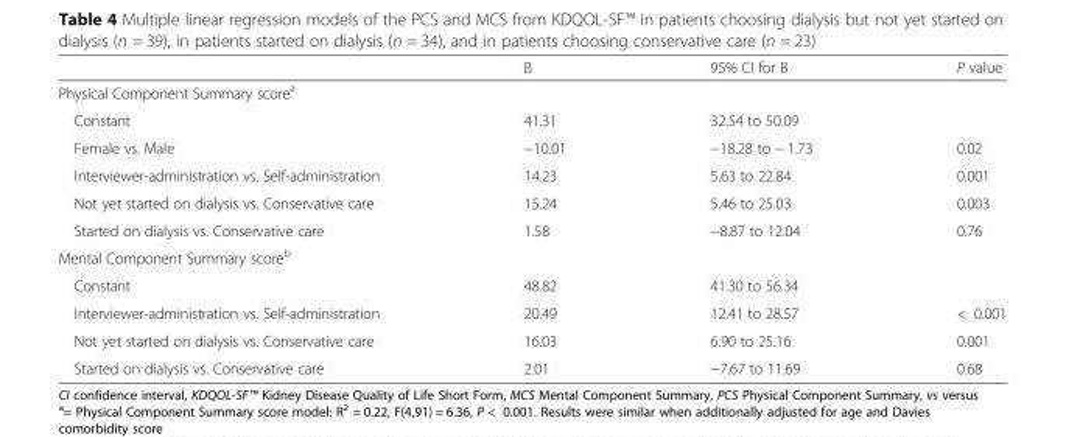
<table><thead><tr><td></td><td>B</td><td>95% CI for B</td><td>P value</td></tr></thead><tbody><tr><td colspan="4">Physical Component Summary score<sup>a</sup></td></tr><tr><td>Constant</td><td>41.31</td><td>32.54 to 50.09</td><td></td></tr><tr><td>Female vs. Male</td><td>−10.01</td><td>−18.28 to − 1.73</td><td>0.02</td></tr><tr><td>Interviewer-administration vs. Self-administration</td><td>14.23</td><td>5.63 to 22.84</td><td>0.001</td></tr><tr><td>Not yet started on dialysis vs. Conservative care</td><td>15.24</td><td>5.46 to 25.03</td><td>0.003</td></tr><tr><td>Started on dialysis vs. Conservative care</td><td>1.58</td><td>−8.87 to 12.04</td><td>0.76</td></tr><tr><td colspan="4">Mental Component Summary score<sup>b</sup></td></tr><tr><td>Constant</td><td>48.82</td><td>41.30 to 56.34</td><td></td></tr><tr><td>Interviewer-administration vs. Self-administration</td><td>20.49</td><td>12.41 to 28.57</td><td>&lt; 0.001</td></tr><tr><td>Not yet started on dialysis vs. Conservative care</td><td>16.03</td><td>6.90 to 25.16</td><td>0.001</td></tr><tr><td>Started on dialysis vs. Conservative care</td><td>2.01</td><td>−7.67 to 11.69</td><td>0.68</td></tr></tbody></table>